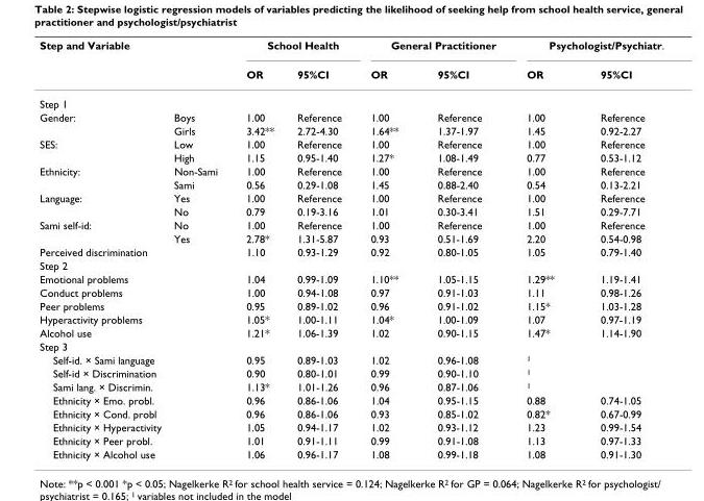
<table><thead><tr><td rowspan="2">Step and Variable</td><td rowspan="2"></td><td colspan="2">School Health</td><td colspan="2">General Practitioner</td><td colspan="2">Psychologist/Psychiatr.</td></tr><tr><td>OR</td><td>95%CI</td><td>OR</td><td>95%CI</td><td>OR</td><td>95%CI</td></tr></thead><tbody><tr><td colspan="8">Step 1</td></tr><tr><td rowspan="2">Gender:</td><td>Boys</td><td>1.00</td><td>Reference</td><td>1.00</td><td>Reference</td><td>1.00</td><td>Reference</td></tr><tr><td>Girls</td><td>3.42**</td><td>2.72-4.30</td><td>1.64**</td><td>1.37-1.97</td><td>1.45</td><td>0.92-2.27</td></tr><tr><td rowspan="2">SES:</td><td>Low</td><td>1.00</td><td>Reference</td><td>1.00</td><td>Reference</td><td>1.00</td><td>Reference</td></tr><tr><td>High</td><td>1.15</td><td>0.95-1.40</td><td>1.27*</td><td>1.08-1.49</td><td>0.77</td><td>0.53-1.12</td></tr><tr><td rowspan="2">Ethnicity:</td><td>Non-Sami</td><td>1.00</td><td>Reference</td><td>1.00</td><td>Reference</td><td>1.00</td><td>Reference</td></tr><tr><td>Sami</td><td>0.56</td><td>0.29-1.08</td><td>1.45</td><td>0.88-2.40</td><td>0.54</td><td>0.13-2.21</td></tr><tr><td rowspan="2">Language:</td><td>Yes</td><td>1.00</td><td>Reference</td><td>1.00</td><td>Reference</td><td>1.00</td><td>Reference</td></tr><tr><td>No</td><td>0.79</td><td>0.19-3.16</td><td>1.01</td><td>0.30-3.41</td><td>1.51</td><td>0.29-7.71</td></tr><tr><td rowspan="2">Sami self-id:</td><td>No</td><td>1.00</td><td>Reference</td><td>1.00</td><td>Reference</td><td>1.00</td><td>Reference</td></tr><tr><td>Yes</td><td>2.78*</td><td>1.31-5.87</td><td>0.93</td><td>0.51-1.69</td><td>2.20</td><td>0.54-0.98</td></tr><tr><td colspan="2">Perceived discrimination</td><td>1.10</td><td>0.93-1.29</td><td>0.92</td><td>0.80-1.05</td><td>1.05</td><td>0.79-1.40</td></tr><tr><td colspan="8">Step 2</td></tr><tr><td colspan="2">Emotional problems</td><td>1.04</td><td>0.99-1.09</td><td>1.10**</td><td>1.05-1.15</td><td>1.29**</td><td>1.19-1.41</td></tr><tr><td colspan="2">Conduct problems</td><td>1.00</td><td>0.94-1.08</td><td>0.97</td><td>0.91-1.03</td><td>1.11</td><td>0.98-1.26</td></tr><tr><td colspan="2">Peer problems</td><td>0.95</td><td>0.89-1.02</td><td>0.96</td><td>0.91-1.02</td><td>1.15*</td><td>1.03-1.28</td></tr><tr><td colspan="2">Hyperactivity problems</td><td>1.05*</td><td>1.00-1.11</td><td>1.04*</td><td>1.00-1.09</td><td>1.07</td><td>0.97-1.19</td></tr><tr><td colspan="2">Alcohol use</td><td>1.21*</td><td>1.06-1.39</td><td>1.02</td><td>0.90-1.15</td><td>1.47*</td><td>1.14-1.90</td></tr><tr><td colspan="8">Step 3</td></tr><tr><td colspan="2">Self-id. × Sami language</td><td>0.95</td><td>0.89-1.03</td><td>1.02</td><td>0.96-1.08</td><td><sup>1</sup></td><td></td></tr><tr><td colspan="2">Self-id × Discrimination</td><td>0.90</td><td>0.80-1.01</td><td>0.99</td><td>0.90-1.10</td><td><sup>1</sup></td><td></td></tr><tr><td colspan="2">Sami lang. × Discrimin.</td><td>1.13*</td><td>1.01-1.26</td><td>0.96</td><td>0.87-1.06</td><td><sup>1</sup></td><td></td></tr><tr><td colspan="2">Ethnicity × Emo. probl.</td><td>0.96</td><td>0.86-1.06</td><td>1.04</td><td>0.95-1.15</td><td>0.88</td><td>0.74-1.05</td></tr><tr><td colspan="2">Ethnicity × Cond. probl</td><td>0.96</td><td>0.86-1.06</td><td>0.93</td><td>0.85-1.02</td><td>0.82*</td><td>0.67-0.99</td></tr><tr><td colspan="2">Ethnicity × Hyperactivity</td><td>1.05</td><td>0.94-1.17</td><td>1.02</td><td>0.93-1.12</td><td>1.23</td><td>0.99-1.54</td></tr><tr><td colspan="2">Ethnicity × Peer probl.</td><td>1.01</td><td>0.91-1.11</td><td>0.99</td><td>0.91-1.08</td><td>1.13</td><td>0.97-1.33</td></tr><tr><td colspan="2">Ethnicity × Alcohol use</td><td>1.06</td><td>0.96-1.17</td><td>1.08</td><td>0.99-1.18</td><td>1.08</td><td>0.91-1.30</td></tr></tbody></table>